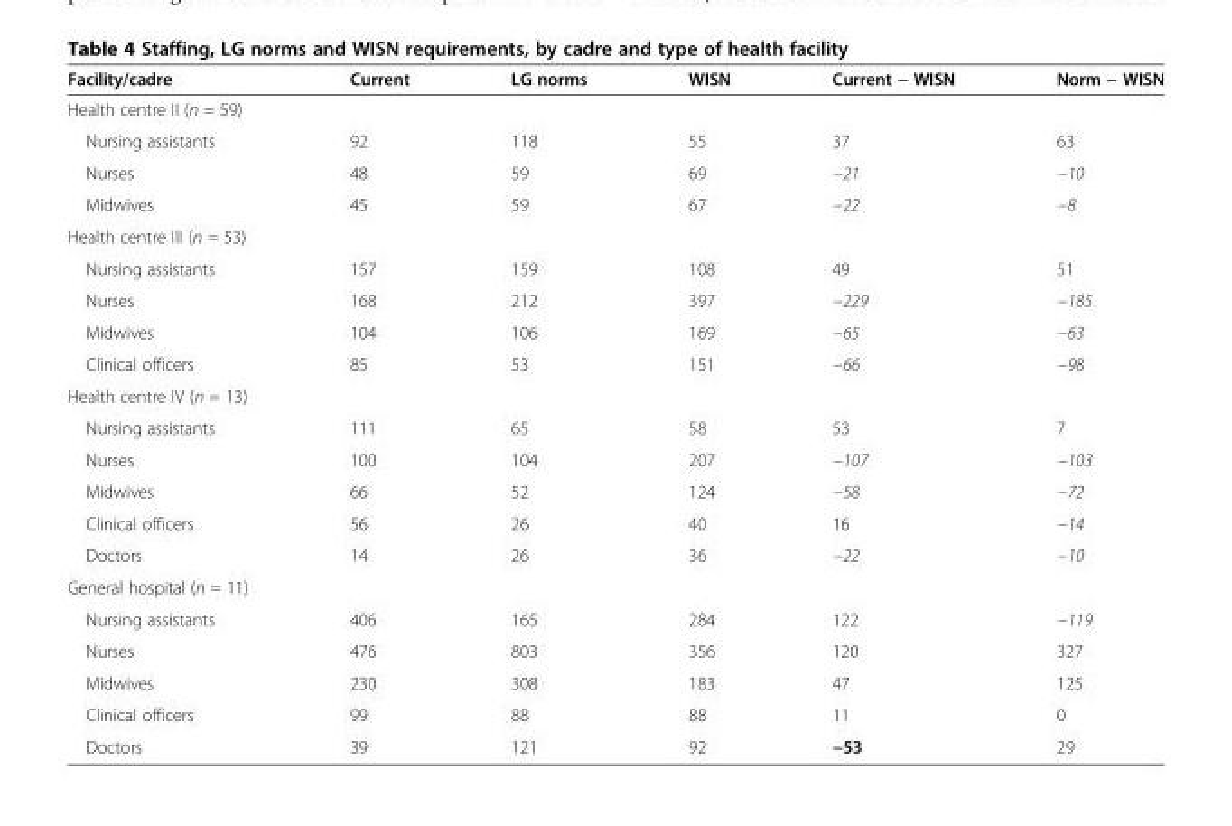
<table><thead><tr><td>Facility/cadre</td><td>Current</td><td>LG norms</td><td>WISN</td><td>Current − WISN</td><td>Norm − WISN</td></tr></thead><tbody><tr><td colspan="6">Health centre II (n = 59)</td></tr><tr><td>Nursing assistants</td><td>92</td><td>118</td><td>55</td><td>37</td><td>63</td></tr><tr><td>Nurses</td><td>48</td><td>59</td><td>69</td><td>−21</td><td>−10</td></tr><tr><td>Midwives</td><td>45</td><td>59</td><td>67</td><td>−22</td><td>−8</td></tr><tr><td colspan="6">Health centre III (n = 53)</td></tr><tr><td>Nursing assistants</td><td>157</td><td>159</td><td>108</td><td>49</td><td>51</td></tr><tr><td>Nurses</td><td>168</td><td>212</td><td>397</td><td>−229</td><td>−185</td></tr><tr><td>Midwives</td><td>104</td><td>106</td><td>169</td><td>−65</td><td>−63</td></tr><tr><td>Clinical officers</td><td>85</td><td>53</td><td>151</td><td>−66</td><td>−98</td></tr><tr><td colspan="6">Health centre IV (n = 13)</td></tr><tr><td>Nursing assistants</td><td>111</td><td>65</td><td>58</td><td>53</td><td>7</td></tr><tr><td>Nurses</td><td>100</td><td>104</td><td>207</td><td>−107</td><td>−103</td></tr><tr><td>Midwives</td><td>66</td><td>52</td><td>124</td><td>−58</td><td>−72</td></tr><tr><td>Clinical officers</td><td>56</td><td>26</td><td>40</td><td>16</td><td>−14</td></tr><tr><td>Doctors</td><td>14</td><td>26</td><td>36</td><td>−22</td><td>−10</td></tr><tr><td colspan="6">General hospital (n = 11)</td></tr><tr><td>Nursing assistants</td><td>406</td><td>165</td><td>284</td><td>122</td><td>−119</td></tr><tr><td>Nurses</td><td>476</td><td>803</td><td>356</td><td>120</td><td>327</td></tr><tr><td>Midwives</td><td>230</td><td>308</td><td>183</td><td>47</td><td>125</td></tr><tr><td>Clinical officers</td><td>99</td><td>88</td><td>88</td><td>11</td><td>0</td></tr><tr><td>Doctors</td><td>39</td><td>121</td><td>92</td><td>−53</td><td>29</td></tr></tbody></table>